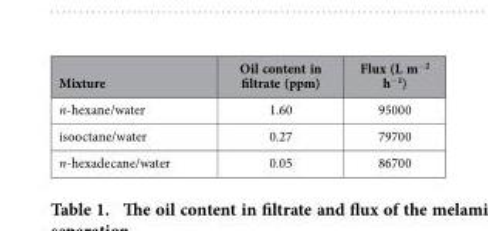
<table><thead><tr><td>Mixture</td><td>Oil content in filtrate (ppm)</td><td>Flux (L m<sup>−2</sup> h<sup>−1</sup>)</td></tr></thead><tbody><tr><td>n-hexane/water</td><td>1.60</td><td>95000</td></tr><tr><td>isooctane/water</td><td>0.27</td><td>79700</td></tr><tr><td>n-hexadecane/water</td><td>0.05</td><td>86700</td></tr></tbody></table>